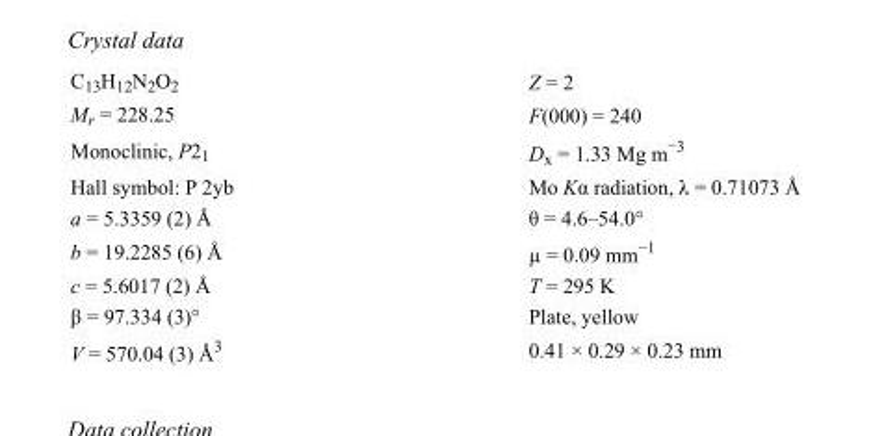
<table><tbody><tr><td>C<sub>13</sub>H<sub>12</sub>N<sub>2</sub>O<sub>2</sub></td><td>Z = 2</td></tr><tr><td>M<sub>r</sub> = 228.25</td><td>F(000) = 240</td></tr><tr><td>Monoclinic, P2<sub>1</sub></td><td>D<sub>x</sub> = 1.33 Mg m<sup>−3</sup></td></tr><tr><td>Hall symbol: P 2yb</td><td>Mo Kα radiation, λ = 0.71073 Å</td></tr><tr><td>a = 5.3359 (2) Å</td><td>θ = 4.6–54.0°</td></tr><tr><td>b = 19.2285 (6) Å</td><td>µ = 0.09 mm<sup>−1</sup></td></tr><tr><td>c = 5.6017 (2) Å</td><td>T = 295 K</td></tr><tr><td>β = 97.334 (3)°</td><td>Plate, yellow</td></tr><tr><td>V = 570.04 (3) Å<sup>3</sup></td><td>0.41 × 0.29 × 0.23 mm</td></tr></tbody></table>